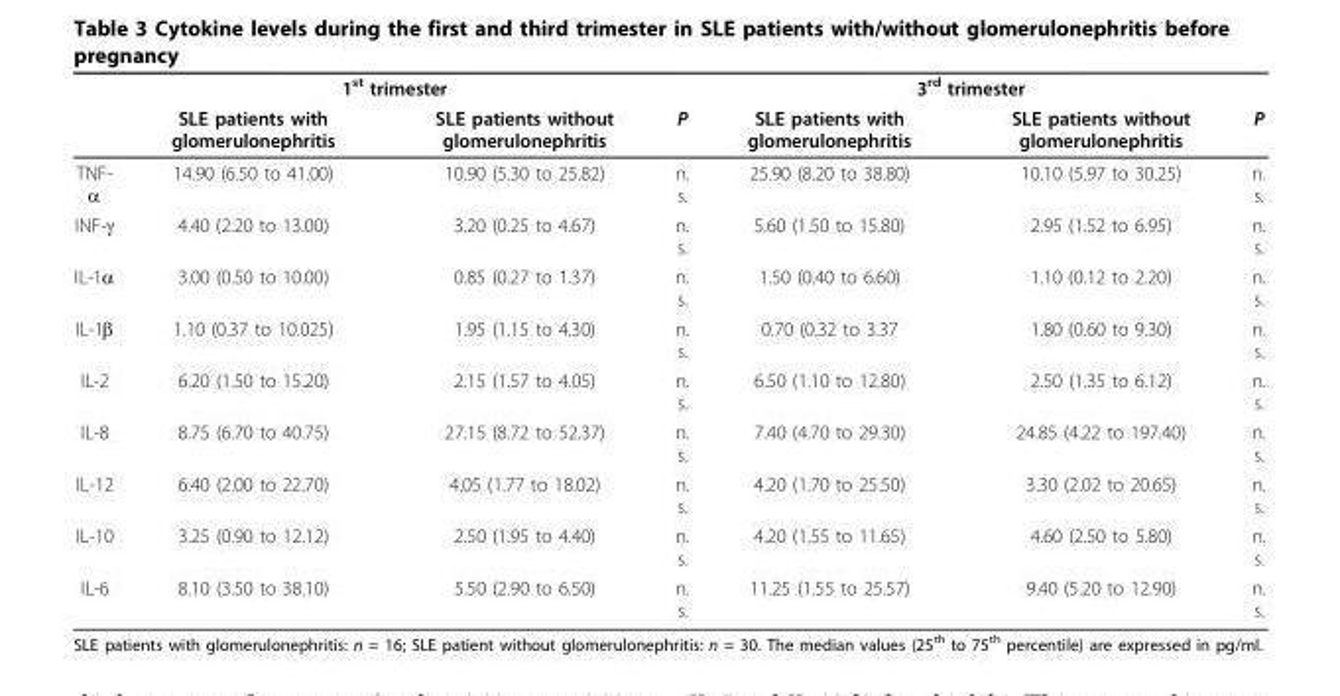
<table><thead><tr><td rowspan="2"></td><td colspan="2">1<sup>st</sup> trimester</td><td rowspan="2">P</td><td colspan="2">3<sup>rd</sup> trimester</td><td rowspan="2">P</td></tr><tr><td>SLE patients with glomerulonephritis</td><td>SLE patients without glomerulonephritis</td><td>SLE patients with glomerulonephritis</td><td>SLE patients without glomerulonephritis</td></tr></thead><tbody><tr><td>TNF- α</td><td>14.90 (6.50 to 41.00)</td><td>10.90 (5.30 to 25.82)</td><td>n. s.</td><td>25.90 (8.20 to 38.80)</td><td>10.10 (5.97 to 30.25)</td><td>n. s.</td></tr><tr><td>INF-γ</td><td>4.40 (2.20 to 13.00)</td><td>3.20 (0.25 to 4.67)</td><td>n. s.</td><td>5.60 (1.50 to 15.80)</td><td>2.95 (1.52 to 6.95)</td><td>n. s.</td></tr><tr><td>IL-1α</td><td>3.00 (0.50 to 10.00)</td><td>0.85 (0.27 to 1.37)</td><td>n. s.</td><td>1.50 (0.40 to 6.60)</td><td>1.10 (0.12 to 2.20)</td><td>n. s.</td></tr><tr><td>IL-1β</td><td>1.10 (0.37 to 10.025)</td><td>1.95 (1.15 to 4.30)</td><td>n. s.</td><td>0.70 (0.32 to 3.37</td><td>1.80 (0.60 to 9.30)</td><td>n. s.</td></tr><tr><td>IL-2</td><td>6.20 (1.50 to 15.20)</td><td>2.15 (1.57 to 4.05)</td><td>n. s.</td><td>6.50 (1.10 to 12.80)</td><td>2.50 (1.35 to 6.12)</td><td>n. s.</td></tr><tr><td>IL-8</td><td>8.75 (6.70 to 40.75)</td><td>27.15 (8.72 to 52.37)</td><td>n. s.</td><td>7.40 (4.70 to 29.30)</td><td>24.85 (4.22 to 197.40)</td><td>n. s.</td></tr><tr><td>IL-12</td><td>6.40 (2.00 to 22.70)</td><td>4.05 (1.77 to 18.02)</td><td>n. s.</td><td>4.20 (1.70 to 25.50)</td><td>3.30 (2.02 to 20.65)</td><td>n. s.</td></tr><tr><td>IL-10</td><td>3.25 (0.90 to 12.12)</td><td>2.50 (1.95 to 4.40)</td><td>n. s.</td><td>4.20 (1.55 to 11.65)</td><td>4.60 (2.50 to 5.80)</td><td>n. s.</td></tr><tr><td>IL-6</td><td>8.10 (3.50 to 38.10)</td><td>5.50 (2.90 to 6.50)</td><td>n. s.</td><td>11.25 (1.55 to 25.57)</td><td>9.40 (5.20 to 12.90)</td><td>n. s.</td></tr></tbody></table>